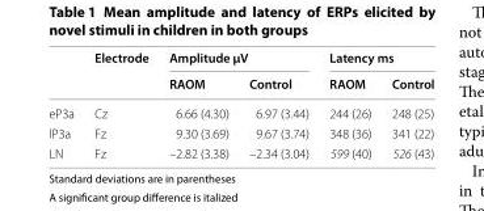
<table><thead><tr><td rowspan="2"></td><td rowspan="2">Electrode</td><td colspan="2">Amplitude µV</td><td colspan="2">Latency ms</td></tr><tr><td>RAOM</td><td>Control</td><td>RAOM</td><td>Control</td></tr></thead><tbody><tr><td>eP3a</td><td>Cz</td><td>6.66 (4.30)</td><td>6.97 (3.44)</td><td>244 (26)</td><td>248 (25)</td></tr><tr><td>lP3a</td><td>Fz</td><td>9.30 (3.69)</td><td>9.67 (3.74)</td><td>348 (36)</td><td>341 (22)</td></tr><tr><td>LN</td><td>Fz</td><td>–2.82 (3.38)</td><td>–2.34 (3.04)</td><td>599 (40)</td><td>526 (43)</td></tr></tbody></table>